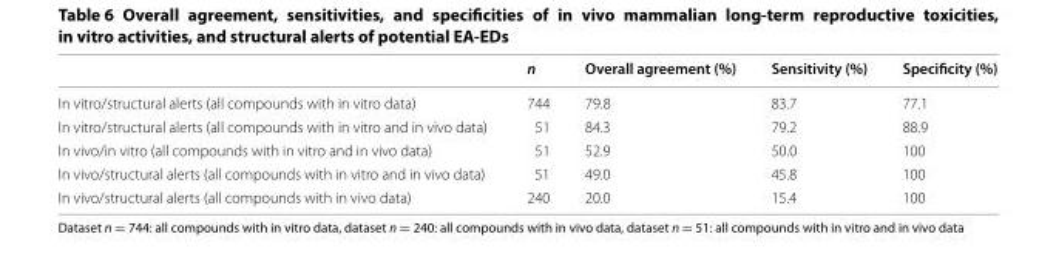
<table><thead><tr><td></td><td>n</td><td>Overall agreement (%)</td><td>Sensitivity (%)</td><td>Specificity (%)</td></tr></thead><tbody><tr><td>In vitro/structural alerts (all compounds with in vitro data)</td><td>744</td><td>79.8</td><td>83.7</td><td>77.1</td></tr><tr><td>In vitro/structural alerts (all compounds with in vitro and in vivo data)</td><td>51</td><td>84.3</td><td>79.2</td><td>88.9</td></tr><tr><td>In vivo/in vitro (all compounds with in vitro and in vivo data)</td><td>51</td><td>52.9</td><td>50.0</td><td>100</td></tr><tr><td>In vivo/structural alerts (all compounds with in vitro and in vivo data)</td><td>51</td><td>49.0</td><td>45.8</td><td>100</td></tr><tr><td>In vivo/structural alerts (all compounds with in vivo data)</td><td>240</td><td>20.0</td><td>15.4</td><td>100</td></tr></tbody></table>